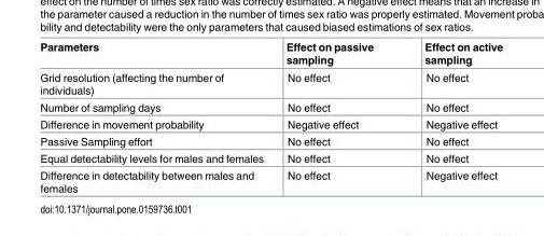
<table><thead><tr><td>Parameters</td><td>Effect on passive sampling</td><td>Effect on active sampling</td></tr></thead><tbody><tr><td>Grid resolution (affecting the number of individuals)</td><td>No effect</td><td>No effect</td></tr><tr><td>Number of sampling days</td><td>No effect</td><td>No effect</td></tr><tr><td>Difference in movement probability</td><td>Negative effect</td><td>Negative effect</td></tr><tr><td>Passive Sampling effort</td><td>No effect</td><td>No effect</td></tr><tr><td>Equal detectability levels for males and females</td><td>No effect</td><td>No effect</td></tr><tr><td>Difference in detectability between males and females</td><td>No effect</td><td>Negative effect</td></tr></tbody></table>